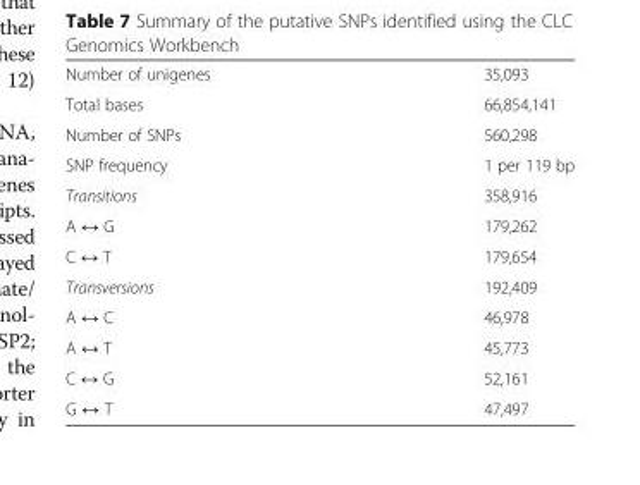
<table><tbody><tr><td>Number of unigenes</td><td>35,093</td></tr><tr><td>Total bases</td><td>66,854,141</td></tr><tr><td>Number of SNPs</td><td>560,298</td></tr><tr><td>SNP frequency</td><td>1 per 119 bp</td></tr><tr><td>Transitions</td><td>358,916</td></tr><tr><td>A ↔ G</td><td>179,262</td></tr><tr><td>C ↔ T</td><td>179,654</td></tr><tr><td>Transversions</td><td>192,409</td></tr><tr><td>A ↔ C</td><td>46,978</td></tr><tr><td>A ↔ T</td><td>45,773</td></tr><tr><td>C ↔ G</td><td>52,161</td></tr><tr><td>G ↔ T</td><td>47,497</td></tr></tbody></table>